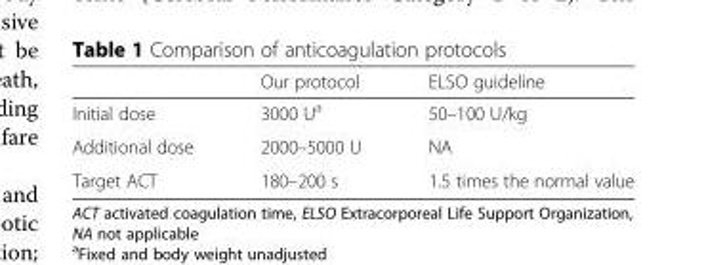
<table><thead><tr><td></td><td>Our protocol</td><td>ELSO guideline</td></tr></thead><tbody><tr><td>Initial dose</td><td>3000 U<sup>a</sup></td><td>50–100 U/kg</td></tr><tr><td>Additional dose</td><td>2000–5000 U</td><td>NA</td></tr><tr><td>Target ACT</td><td>180–200 s</td><td>1.5 times the normal value</td></tr></tbody></table>